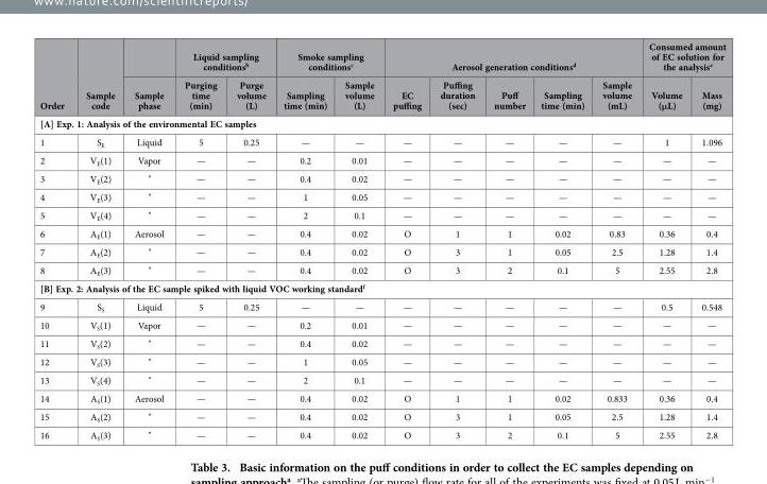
<table><thead><tr><td rowspan="2">Order</td><td rowspan="2">Sample code</td><td rowspan="2">Sample phase</td><td colspan="2">Liquid sampling conditions<sup>b</sup></td><td colspan="2">Smoke sampling conditions<sup>c</sup></td><td colspan="5">Aerosol generation conditions<sup>d</sup></td><td colspan="2">Consumed amount of EC solution for the analysis<sup>e</sup></td></tr><tr><td>Purging time (min)</td><td>Purge volume (L)</td><td>Sampling time (min)</td><td>Sample volume (L)</td><td>EC puffing</td><td>Puffing duration (sec)</td><td>Puff number</td><td>Sampling time (min)</td><td>Sample volume (mL)</td><td>Volume (μL)</td><td>Mass (mg)</td></tr></thead><tbody><tr><td colspan="14">[A] Exp. 1: Analysis of the environmental EC samples</td></tr><tr><td>1</td><td>S<sub>E</sub></td><td>Liquid</td><td>5</td><td>0.25</td><td>—</td><td>—</td><td>—</td><td>—</td><td>—</td><td>—</td><td>—</td><td>1</td><td>1.096</td></tr><tr><td>2</td><td>V<sub>E</sub>(1)</td><td>Vapor</td><td>—</td><td>—</td><td>0.2</td><td>0.01</td><td>—</td><td>—</td><td>—</td><td>—</td><td>—</td><td>—</td><td>—</td></tr><tr><td>3</td><td>V<sub>E</sub>(2)</td><td>&quot;</td><td>—</td><td>—</td><td>0.4</td><td>0.02</td><td>—</td><td>—</td><td>—</td><td>—</td><td>—</td><td>—</td><td>—</td></tr><tr><td>4</td><td>V<sub>E</sub>(3)</td><td>&quot;</td><td>—</td><td>—</td><td>1</td><td>0.05</td><td>—</td><td>—</td><td>—</td><td>—</td><td>—</td><td>—</td><td>—</td></tr><tr><td>5</td><td>V<sub>E</sub>(4)</td><td>&quot;</td><td>—</td><td>—</td><td>2</td><td>0.1</td><td>—</td><td>—</td><td>—</td><td>—</td><td>—</td><td>—</td><td>—</td></tr><tr><td>6</td><td>A<sub>E</sub>(1)</td><td>Aerosol</td><td>—</td><td>—</td><td>0.4</td><td>0.02</td><td>O</td><td>1</td><td>1</td><td>0.02</td><td>0.83</td><td>0.36</td><td>0.4</td></tr><tr><td>7</td><td>A<sub>E</sub>(2)</td><td>&quot;</td><td>—</td><td>—</td><td>0.4</td><td>0.02</td><td>O</td><td>3</td><td>1</td><td>0.05</td><td>2.5</td><td>1.28</td><td>1.4</td></tr><tr><td>8</td><td>A<sub>E</sub>(3)</td><td>&quot;</td><td>—</td><td>—</td><td>0.4</td><td>0.02</td><td>O</td><td>3</td><td>2</td><td>0.1</td><td>5</td><td>2.55</td><td>2.8</td></tr><tr><td colspan="14">[B] Exp. 2: Analysis of the EC sample spiked with liquid VOC working standard<sup>f</sup></td></tr><tr><td>9</td><td>S<sub>S</sub></td><td>Liquid</td><td>5</td><td>0.25</td><td>—</td><td>—</td><td>—</td><td>—</td><td>—</td><td>—</td><td>—</td><td>0.5</td><td>0.548</td></tr><tr><td>10</td><td>V<sub>S</sub>(1)</td><td>Vapor</td><td>—</td><td>—</td><td>0.2</td><td>0.01</td><td>—</td><td>—</td><td>—</td><td>—</td><td>—</td><td>—</td><td>—</td></tr><tr><td>11</td><td>V<sub>S</sub>(2)</td><td>&quot;</td><td>—</td><td>—</td><td>0.4</td><td>0.02</td><td>—</td><td>—</td><td>—</td><td>—</td><td>—</td><td>—</td><td>—</td></tr><tr><td>12</td><td>V<sub>S</sub>(3)</td><td>&quot;</td><td>—</td><td>—</td><td>1</td><td>0.05</td><td>—</td><td>—</td><td>—</td><td>—</td><td>—</td><td>—</td><td>—</td></tr><tr><td>13</td><td>V<sub>S</sub>(4)</td><td>&quot;</td><td>—</td><td>—</td><td>2</td><td>0.1</td><td>—</td><td>—</td><td>—</td><td>—</td><td>—</td><td>—</td><td>—</td></tr><tr><td>14</td><td>A<sub>S</sub>(1)</td><td>Aerosol</td><td>—</td><td>—</td><td>0.4</td><td>0.02</td><td>O</td><td>1</td><td>1</td><td>0.02</td><td>0.833</td><td>0.36</td><td>0.4</td></tr><tr><td>15</td><td>A<sub>S</sub>(2)</td><td>&quot;</td><td>—</td><td>—</td><td>0.4</td><td>0.02</td><td>O</td><td>3</td><td>1</td><td>0.05</td><td>2.5</td><td>1.28</td><td>1.4</td></tr><tr><td>16</td><td>A<sub>S</sub>(3)</td><td>&quot;</td><td>—</td><td>—</td><td>0.4</td><td>0.02</td><td>O</td><td>3</td><td>2</td><td>0.1</td><td>5</td><td>2.55</td><td>2.8</td></tr></tbody></table>